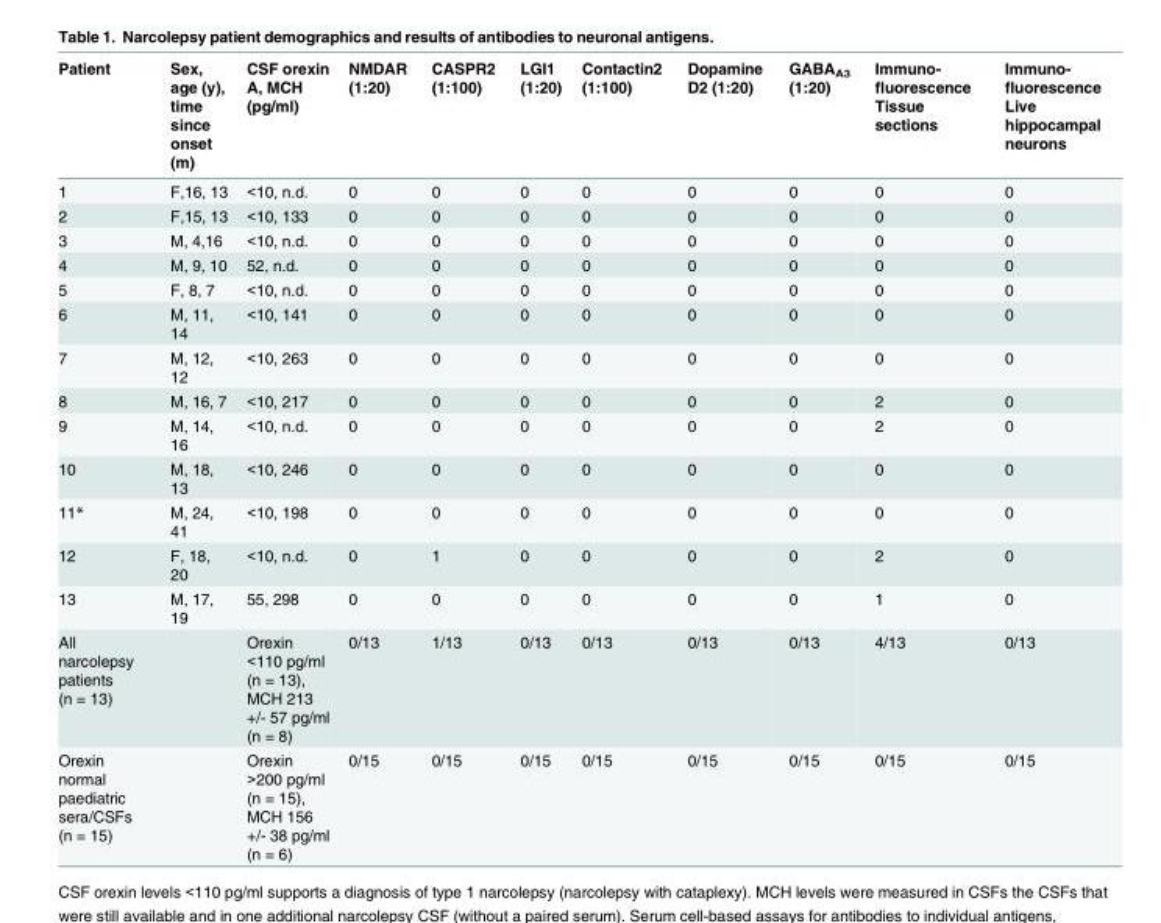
<table><thead><tr><td>Patient</td><td>Sex, age (y), time since onset (m)</td><td>CSF orexin A, MCH (pg/ml)</td><td>NMDAR (1:20)</td><td>CASPR2 (1:100)</td><td>LGI1 (1:20)</td><td>Contactin2 (1:100)</td><td>Dopamine D2 (1:20)</td><td>GABA<sub>A3</sub> (1:20)</td><td>Immuno- fluorescence Tissue sections</td><td>Immuno- fluorescence Live hippocampal neurons</td></tr></thead><tbody><tr><td>1</td><td>F,16, 13</td><td>&lt;10, n.d.</td><td>0</td><td>0</td><td>0</td><td>0</td><td>0</td><td>0</td><td>0</td><td>0</td></tr><tr><td>2</td><td>F,15, 13</td><td>&lt;10, 133</td><td>0</td><td>0</td><td>0</td><td>0</td><td>0</td><td>0</td><td>0</td><td>0</td></tr><tr><td>3</td><td>M, 4,16</td><td>&lt;10, n.d.</td><td>0</td><td>0</td><td>0</td><td>0</td><td>0</td><td>0</td><td>0</td><td>0</td></tr><tr><td>4</td><td>M, 9, 10</td><td>52, n.d.</td><td>0</td><td>0</td><td>0</td><td>0</td><td>0</td><td>0</td><td>0</td><td>0</td></tr><tr><td>5</td><td>F, 8, 7</td><td>&lt;10, n.d.</td><td>0</td><td>0</td><td>0</td><td>0</td><td>0</td><td>0</td><td>0</td><td>0</td></tr><tr><td>6</td><td>M, 11, 14</td><td>&lt;10, 141</td><td>0</td><td>0</td><td>0</td><td>0</td><td>0</td><td>0</td><td>0</td><td>0</td></tr><tr><td>7</td><td>M, 12, 12</td><td>&lt;10, 263</td><td>0</td><td>0</td><td>0</td><td>0</td><td>0</td><td>0</td><td>0</td><td>0</td></tr><tr><td>8</td><td>M, 16, 7</td><td>&lt;10, 217</td><td>0</td><td>0</td><td>0</td><td>0</td><td>0</td><td>0</td><td>2</td><td>0</td></tr><tr><td>9</td><td>M, 14, 16</td><td>&lt;10, n.d.</td><td>0</td><td>0</td><td>0</td><td>0</td><td>0</td><td>0</td><td>2</td><td>0</td></tr><tr><td>10</td><td>M, 18, 13</td><td>&lt;10, 246</td><td>0</td><td>0</td><td>0</td><td>0</td><td>0</td><td>0</td><td>0</td><td>0</td></tr><tr><td>11*</td><td>M, 24, 41</td><td>&lt;10, 198</td><td>0</td><td>0</td><td>0</td><td>0</td><td>0</td><td>0</td><td>0</td><td>0</td></tr><tr><td>12</td><td>F, 18, 20</td><td>&lt;10, n.d.</td><td>0</td><td>1</td><td>0</td><td>0</td><td>0</td><td>0</td><td>2</td><td>0</td></tr><tr><td>13</td><td>M, 17, 19</td><td>55, 298</td><td>0</td><td>0</td><td>0</td><td>0</td><td>0</td><td>0</td><td>1</td><td>0</td></tr><tr><td>All narcolepsy patients (n = 13)</td><td></td><td>Orexin &lt;110 pg/ml (n = 13), MCH 213 +/- 57 pg/ml (n = 8)</td><td>0/13</td><td>1/13</td><td>0/13</td><td>0/13</td><td>0/13</td><td>0/13</td><td>4/13</td><td>0/13</td></tr><tr><td>Orexin normal paediatric sera/CSFs (n = 15)</td><td></td><td>Orexin &gt;200 pg/ml (n = 15), MCH 156 +/- 38 pg/ml (n = 6)</td><td>0/15</td><td>0/15</td><td>0/15</td><td>0/15</td><td>0/15</td><td>0/15</td><td>0/15</td><td>0/15</td></tr></tbody></table>